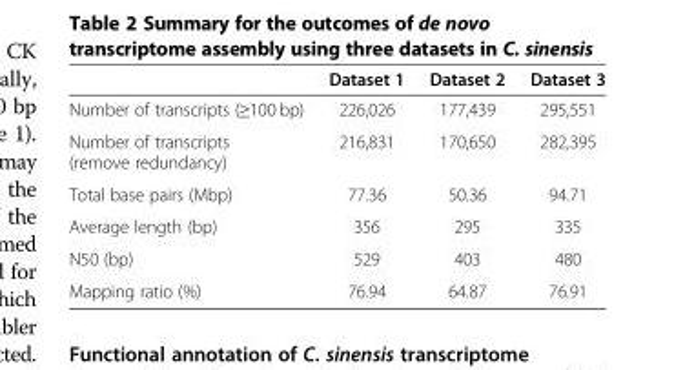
<table><thead><tr><td></td><td>Dataset 1</td><td>Dataset 2</td><td>Dataset 3</td></tr></thead><tbody><tr><td>Number of transcripts (≥100 bp)</td><td>226,026</td><td>177,439</td><td>295,551</td></tr><tr><td>Number of transcripts (remove redundancy)</td><td>216,831</td><td>170,650</td><td>282,395</td></tr><tr><td>Total base pairs (Mbp)</td><td>77.36</td><td>50.36</td><td>94.71</td></tr><tr><td>Average length (bp)</td><td>356</td><td>295</td><td>335</td></tr><tr><td>N50 (bp)</td><td>529</td><td>403</td><td>480</td></tr><tr><td>Mapping ratio (%)</td><td>76.94</td><td>64.87</td><td>76.91</td></tr></tbody></table>